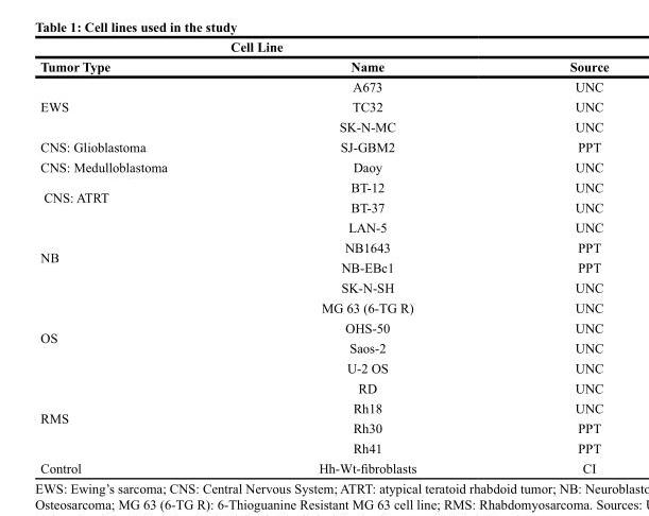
<table><thead><tr><td colspan="2">Cell Line</td><td rowspan="2">Source</td></tr><tr><td>Tumor Type</td><td>Name</td></tr></thead><tbody><tr><td rowspan="3">EWS</td><td>A673</td><td>UNC</td></tr><tr><td>TC32</td><td>UNC</td></tr><tr><td>SK-N-MC</td><td>UNC</td></tr><tr><td>CNS: Glioblastoma</td><td>SJ-GBM2</td><td>PPT</td></tr><tr><td>CNS: Medulloblastoma</td><td>Daoy</td><td>UNC</td></tr><tr><td rowspan="2">CNS: ATRT</td><td>BT-12</td><td>UNC</td></tr><tr><td>BT-37</td><td>UNC</td></tr><tr><td rowspan="4">NB</td><td>LAN-5</td><td>UNC</td></tr><tr><td>NB1643</td><td>PPT</td></tr><tr><td>NB-EBc1</td><td>PPT</td></tr><tr><td>SK-N-SH</td><td>UNC</td></tr><tr><td rowspan="4">OS</td><td>MG 63 (6-TG R)</td><td>UNC</td></tr><tr><td>OHS-50</td><td>UNC</td></tr><tr><td>Saos-2</td><td>UNC</td></tr><tr><td>U-2 OS</td><td>UNC</td></tr><tr><td rowspan="4">RMS</td><td>RD</td><td>UNC</td></tr><tr><td>Rh18</td><td>UNC</td></tr><tr><td>Rh30</td><td>PPT</td></tr><tr><td>Rh41</td><td>PPT</td></tr><tr><td>Control</td><td>Hh-Wt-fibroblasts</td><td>CI</td></tr></tbody></table>